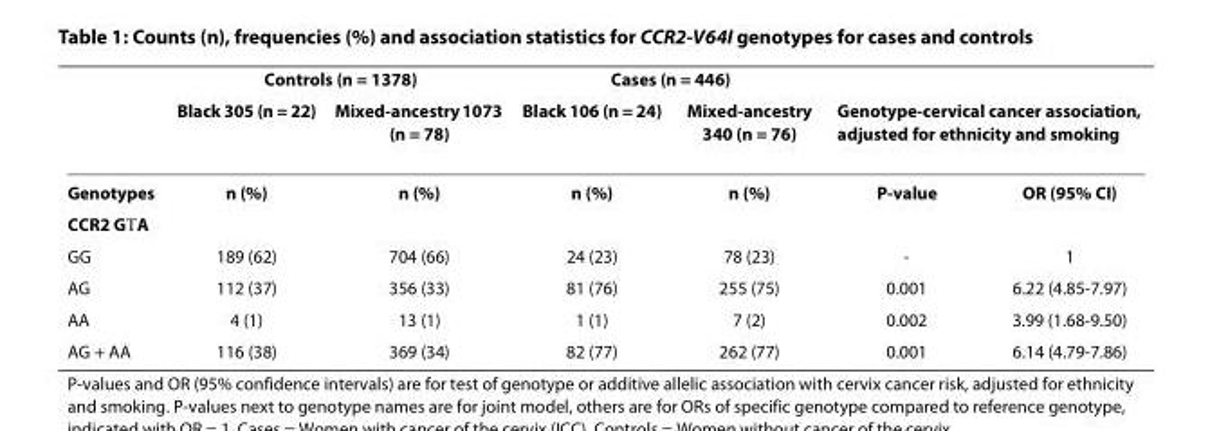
<table><thead><tr><td rowspan="2"></td><td colspan="2">Controls (n = 1378)</td><td colspan="2">Cases (n = 446)</td><td></td><td></td></tr><tr><td>Black 305 (n = 22)</td><td>Mixed-ancestry 1073 (n = 78)</td><td>Black 106 (n = 24)</td><td>Mixed-ancestry 340 (n = 76)</td><td colspan="2">Genotype-cervical cancer association, adjusted for ethnicity and smoking</td></tr></thead><tbody><tr><td>Genotypes</td><td>n (%)</td><td>n (%)</td><td>n (%)</td><td>n (%)</td><td>P-value</td><td>OR (95% CI)</td></tr><tr><td colspan="7">CCR2 G→A</td></tr><tr><td>GG</td><td>189 (62)</td><td>704 (66)</td><td>24 (23)</td><td>78 (23)</td><td>-</td><td>1</td></tr><tr><td>AG</td><td>112 (37)</td><td>356 (33)</td><td>81 (76)</td><td>255 (75)</td><td>0.001</td><td>6.22 (4.85-7.97)</td></tr><tr><td>AA</td><td>4 (1)</td><td>13 (1)</td><td>1 (1)</td><td>7 (2)</td><td>0.002</td><td>3.99 (1.68-9.50)</td></tr><tr><td>AG + AA</td><td>116 (38)</td><td>369 (34)</td><td>82 (77)</td><td>262 (77)</td><td>0.001</td><td>6.14 (4.79-7.86)</td></tr></tbody></table>